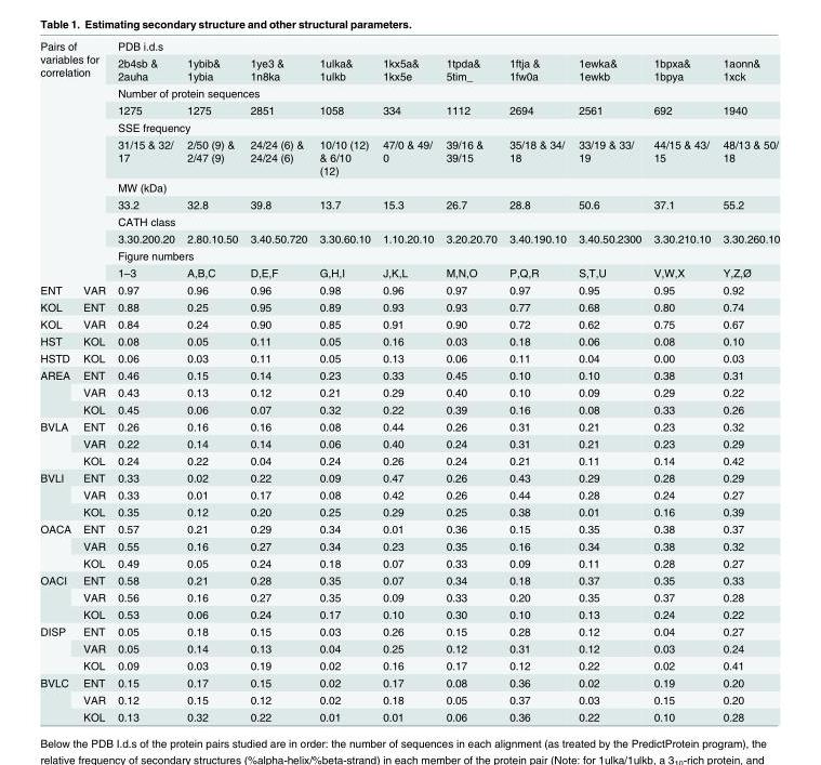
<table><tbody><tr><td rowspan="12" colspan="2">Pairs of variables for correlation</td><td colspan="10">PDB i.d.s</td></tr><tr><td>2b4sb &amp; 2auha</td><td>1ybib&amp; 1ybia</td><td>1ye3 &amp; 1n8ka</td><td>1ulka&amp; 1ulkb</td><td>1kx5a&amp; 1kx5e</td><td>1tpda&amp; 5tim_</td><td>1ftja &amp; 1fw0a</td><td>1ewka&amp; 1ewkb</td><td>1bpxa&amp; 1bpya</td><td>1aonn&amp; 1xck</td></tr><tr><td colspan="10">Number of protein sequences</td></tr><tr><td>1275</td><td>1275</td><td>2851</td><td>1058</td><td>334</td><td>1112</td><td>2694</td><td>2561</td><td>692</td><td>1940</td></tr><tr><td colspan="10">SSE frequency</td></tr><tr><td>31/15 &amp; 32/ 17</td><td>2/50 (9) &amp; 2/47 (9)</td><td>24/24 (6) &amp; 24/24 (6)</td><td>10/10 (12) &amp; 6/10 (12)</td><td>47/0 &amp; 49/ 0</td><td>39/16 &amp; 39/15</td><td>35/18 &amp; 34/ 18</td><td>33/19 &amp; 33/ 19</td><td>44/15 &amp; 43/ 15</td><td>48/13 &amp; 50/ 18</td></tr><tr><td colspan="10">MW (kDa)</td></tr><tr><td>33.2</td><td>32.8</td><td>39.8</td><td>13.7</td><td>15.3</td><td>26.7</td><td>28.8</td><td>50.6</td><td>37.1</td><td>55.2</td></tr><tr><td colspan="10">CATH class</td></tr><tr><td>3.30.200.20</td><td>2.80.10.50</td><td>3.40.50.720</td><td>3.30.60.10</td><td>1.10.20.10</td><td>3.20.20.70</td><td>3.40.190.10</td><td>3.40.50.2300</td><td>3.30.210.10</td><td>3.30.260.10</td></tr><tr><td colspan="10">Figure numbers</td></tr><tr><td>1–3</td><td>A,B,C</td><td>D,E,F</td><td>G,H,I</td><td>J,K,L</td><td>M,N,O</td><td>P,Q,R</td><td>S,T,U</td><td>V,W,X</td><td>Y,Z,Ø</td></tr><tr><td>ENT</td><td>VAR</td><td>0.97</td><td>0.96</td><td>0.96</td><td>0.98</td><td>0.96</td><td>0.97</td><td>0.97</td><td>0.95</td><td>0.95</td><td>0.92</td></tr><tr><td>KOL</td><td>ENT</td><td>0.88</td><td>0.25</td><td>0.95</td><td>0.89</td><td>0.93</td><td>0.93</td><td>0.77</td><td>0.68</td><td>0.80</td><td>0.74</td></tr><tr><td>KOL</td><td>VAR</td><td>0.84</td><td>0.24</td><td>0.90</td><td>0.85</td><td>0.91</td><td>0.90</td><td>0.72</td><td>0.62</td><td>0.75</td><td>0.67</td></tr><tr><td>HST</td><td>KOL</td><td>0.08</td><td>0.05</td><td>0.11</td><td>0.05</td><td>0.16</td><td>0.03</td><td>0.18</td><td>0.06</td><td>0.08</td><td>0.10</td></tr><tr><td>HSTD</td><td>KOL</td><td>0.06</td><td>0.03</td><td>0.11</td><td>0.05</td><td>0.13</td><td>0.06</td><td>0.11</td><td>0.04</td><td>0.00</td><td>0.03</td></tr><tr><td rowspan="3">AREA</td><td>ENT</td><td>0.46</td><td>0.15</td><td>0.14</td><td>0.23</td><td>0.33</td><td>0.45</td><td>0.10</td><td>0.10</td><td>0.38</td><td>0.31</td></tr><tr><td>VAR</td><td>0.43</td><td>0.13</td><td>0.12</td><td>0.21</td><td>0.29</td><td>0.40</td><td>0.10</td><td>0.09</td><td>0.29</td><td>0.22</td></tr><tr><td>KOL</td><td>0.45</td><td>0.06</td><td>0.07</td><td>0.32</td><td>0.22</td><td>0.39</td><td>0.16</td><td>0.08</td><td>0.33</td><td>0.26</td></tr><tr><td rowspan="3">BVLA</td><td>ENT</td><td>0.26</td><td>0.16</td><td>0.16</td><td>0.08</td><td>0.44</td><td>0.26</td><td>0.31</td><td>0.21</td><td>0.23</td><td>0.32</td></tr><tr><td>VAR</td><td>0.22</td><td>0.14</td><td>0.14</td><td>0.06</td><td>0.40</td><td>0.24</td><td>0.31</td><td>0.21</td><td>0.23</td><td>0.29</td></tr><tr><td>KOL</td><td>0.24</td><td>0.22</td><td>0.04</td><td>0.24</td><td>0.26</td><td>0.24</td><td>0.21</td><td>0.11</td><td>0.14</td><td>0.42</td></tr><tr><td rowspan="3">BVLI</td><td>ENT</td><td>0.33</td><td>0.02</td><td>0.22</td><td>0.09</td><td>0.47</td><td>0.26</td><td>0.43</td><td>0.29</td><td>0.28</td><td>0.29</td></tr><tr><td>VAR</td><td>0.33</td><td>0.01</td><td>0.17</td><td>0.08</td><td>0.42</td><td>0.26</td><td>0.44</td><td>0.28</td><td>0.24</td><td>0.27</td></tr><tr><td>KOL</td><td>0.35</td><td>0.12</td><td>0.20</td><td>0.25</td><td>0.29</td><td>0.25</td><td>0.38</td><td>0.01</td><td>0.16</td><td>0.39</td></tr><tr><td rowspan="3">OACA</td><td>ENT</td><td>0.57</td><td>0.21</td><td>0.29</td><td>0.34</td><td>0.01</td><td>0.36</td><td>0.15</td><td>0.35</td><td>0.38</td><td>0.37</td></tr><tr><td>VAR</td><td>0.55</td><td>0.16</td><td>0.27</td><td>0.34</td><td>0.23</td><td>0.35</td><td>0.16</td><td>0.34</td><td>0.38</td><td>0.32</td></tr><tr><td>KOL</td><td>0.49</td><td>0.05</td><td>0.24</td><td>0.18</td><td>0.07</td><td>0.33</td><td>0.09</td><td>0.11</td><td>0.28</td><td>0.27</td></tr><tr><td rowspan="3">OACI</td><td>ENT</td><td>0.58</td><td>0.21</td><td>0.28</td><td>0.35</td><td>0.07</td><td>0.34</td><td>0.18</td><td>0.37</td><td>0.35</td><td>0.33</td></tr><tr><td>VAR</td><td>0.56</td><td>0.16</td><td>0.27</td><td>0.35</td><td>0.09</td><td>0.33</td><td>0.20</td><td>0.35</td><td>0.37</td><td>0.28</td></tr><tr><td>KOL</td><td>0.53</td><td>0.06</td><td>0.24</td><td>0.17</td><td>0.10</td><td>0.30</td><td>0.10</td><td>0.13</td><td>0.24</td><td>0.22</td></tr><tr><td rowspan="3">DISP</td><td>ENT</td><td>0.05</td><td>0.18</td><td>0.15</td><td>0.03</td><td>0.26</td><td>0.15</td><td>0.28</td><td>0.12</td><td>0.04</td><td>0.27</td></tr><tr><td>VAR</td><td>0.05</td><td>0.14</td><td>0.13</td><td>0.04</td><td>0.25</td><td>0.12</td><td>0.31</td><td>0.12</td><td>0.03</td><td>0.24</td></tr><tr><td>KOL</td><td>0.09</td><td>0.03</td><td>0.19</td><td>0.02</td><td>0.16</td><td>0.17</td><td>0.12</td><td>0.22</td><td>0.02</td><td>0.41</td></tr><tr><td rowspan="3">BVLC</td><td>ENT</td><td>0.15</td><td>0.17</td><td>0.15</td><td>0.02</td><td>0.17</td><td>0.08</td><td>0.36</td><td>0.02</td><td>0.19</td><td>0.20</td></tr><tr><td>VAR</td><td>0.12</td><td>0.15</td><td>0.12</td><td>0.02</td><td>0.18</td><td>0.05</td><td>0.37</td><td>0.03</td><td>0.15</td><td>0.20</td></tr><tr><td>KOL</td><td>0.13</td><td>0.32</td><td>0.22</td><td>0.01</td><td>0.01</td><td>0.06</td><td>0.36</td><td>0.22</td><td>0.10</td><td>0.28</td></tr></tbody></table>